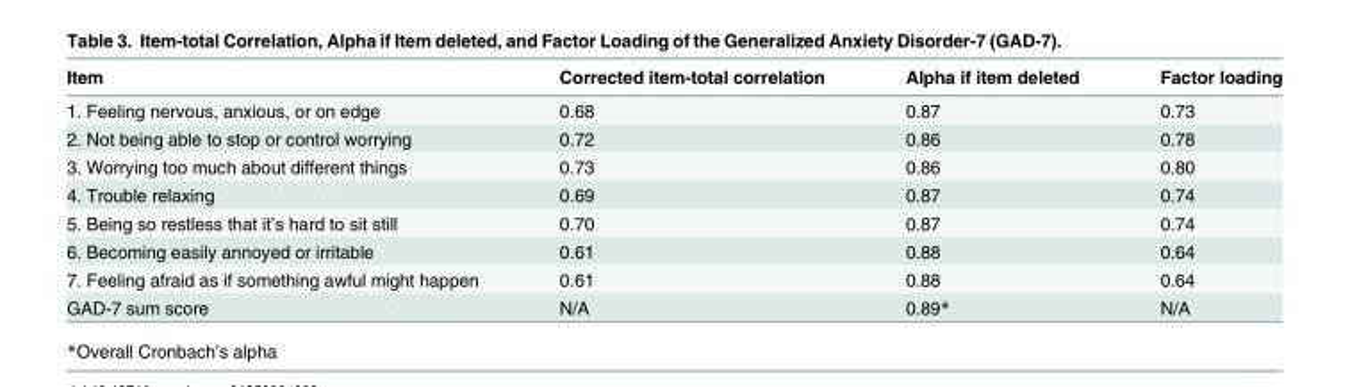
<table><thead><tr><td>Item</td><td>Corrected item-total correlation</td><td>Alpha if item deleted</td><td>Factor loading</td></tr></thead><tbody><tr><td>1. Feeling nervous, anxious, or on edge</td><td>0.68</td><td>0.87</td><td>0.73</td></tr><tr><td>2. Not being able to stop or control worrying</td><td>0.72</td><td>0.86</td><td>0.78</td></tr><tr><td>3. Worrying too much about different things</td><td>0.73</td><td>0.86</td><td>0.80</td></tr><tr><td>4. Trouble relaxing</td><td>0.69</td><td>0.87</td><td>0.74</td></tr><tr><td>5. Being so restless that it’s hard to sit still</td><td>0.70</td><td>0.87</td><td>0.74</td></tr><tr><td>6. Becoming easily annoyed or irritable</td><td>0.61</td><td>0.88</td><td>0.64</td></tr><tr><td>7. Feeling afraid as if something awful might happen</td><td>0.61</td><td>0.88</td><td>0.64</td></tr><tr><td>GAD-7 sum score</td><td>N/A</td><td>0.89*</td><td>N/A</td></tr></tbody></table>